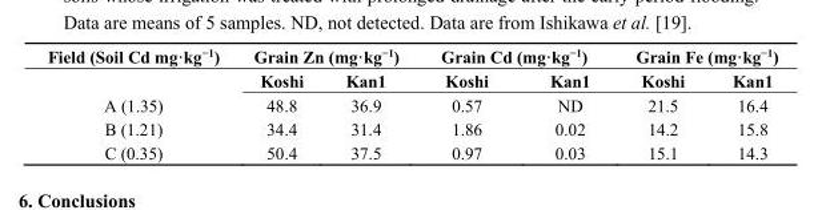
<table><thead><tr><td rowspan="2">Field (Soil Cd mg·kg<sup>−1</sup>)</td><td colspan="2">Grain Zn (mg·kg<sup>−1</sup>)</td><td colspan="2">Grain Cd (mg·kg<sup>−1</sup>)</td><td colspan="2">Grain Fe (mg·kg<sup>−1</sup>)</td></tr><tr><td>Koshi</td><td>Kan1</td><td>Koshi</td><td>Kan1</td><td>Koshi</td><td>Kan1</td></tr></thead><tbody><tr><td>A (1.35)</td><td>48.8</td><td>36.9</td><td>0.57</td><td>ND</td><td>21.5</td><td>16.4</td></tr><tr><td>B (1.21)</td><td>34.4</td><td>31.4</td><td>1.86</td><td>0.02</td><td>14.2</td><td>15.8</td></tr><tr><td>C (0.35)</td><td>50.4</td><td>37.5</td><td>0.97</td><td>0.03</td><td>15.1</td><td>14.3</td></tr></tbody></table>